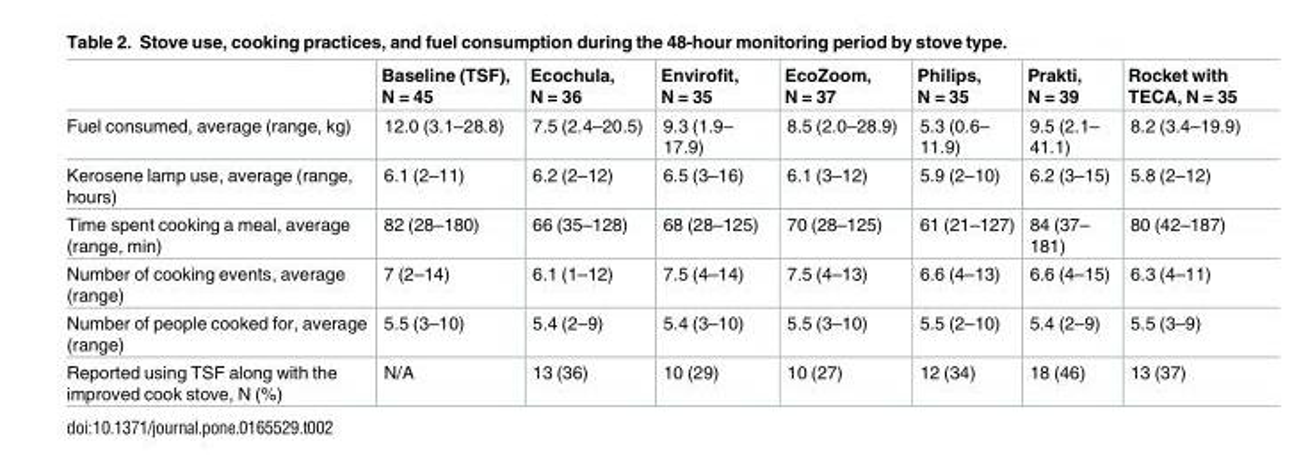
<table><thead><tr><td></td><td>Baseline (TSF), N = 45</td><td>Ecochula, N = 36</td><td>Envirofit, N = 35</td><td>EcoZoom, N = 37</td><td>Philips, N = 35</td><td>Prakti, N = 39</td><td>Rocket with TECA, N = 35</td></tr></thead><tbody><tr><td>Fuel consumed, average (range, kg)</td><td>12.0 (3.1–28.8)</td><td>7.5 (2.4–20.5)</td><td>9.3 (1.9– 17.9)</td><td>8.5 (2.0–28.9)</td><td>5.3 (0.6– 11.9)</td><td>9.5 (2.1– 41.1)</td><td>8.2 (3.4–19.9)</td></tr><tr><td>Kerosene lamp use, average (range, hours)</td><td>6.1 (2–11)</td><td>6.2 (2–12)</td><td>6.5 (3–16)</td><td>6.1 (3–12)</td><td>5.9 (2–10)</td><td>6.2 (3–15)</td><td>5.8 (2–12)</td></tr><tr><td>Time spent cooking a meal, average (range, min)</td><td>82 (28–180)</td><td>66 (35–128)</td><td>68 (28–125)</td><td>70 (28–125)</td><td>61 (21–127)</td><td>84 (37– 181)</td><td>80 (42–187)</td></tr><tr><td>Number of cooking events, average (range)</td><td>7 (2–14)</td><td>6.1 (1–12)</td><td>7.5 (4–14)</td><td>7.5 (4–13)</td><td>6.6 (4–13)</td><td>6.6 (4–15)</td><td>6.3 (4–11)</td></tr><tr><td>Number of people cooked for, average (range)</td><td>5.5 (3–10)</td><td>5.4 (2–9)</td><td>5.4 (3–10)</td><td>5.5 (3–10)</td><td>5.5 (2–10)</td><td>5.4 (2–9)</td><td>5.5 (3–9)</td></tr><tr><td>Reported using TSF along with the improved cook stove, N (%)</td><td>N/A</td><td>13 (36)</td><td>10 (29)</td><td>10 (27)</td><td>12 (34)</td><td>18 (46)</td><td>13 (37)</td></tr></tbody></table>